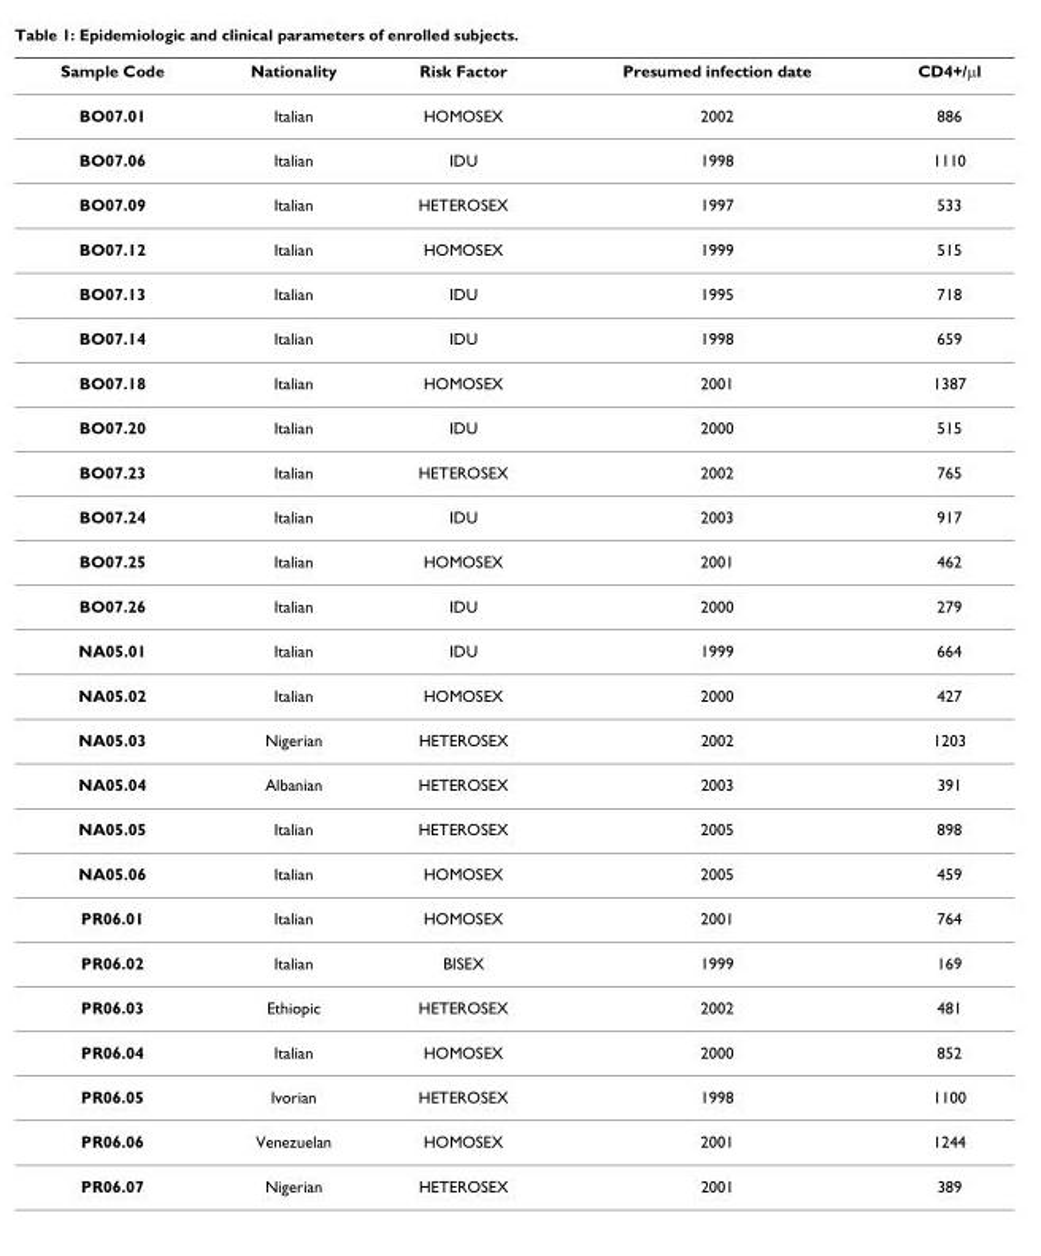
<table><thead><tr><td>Sample Code</td><td>Nationality</td><td>Risk Factor</td><td>Presumed infection date</td><td>CD4+/μl</td></tr></thead><tbody><tr><td>BO07.01</td><td>Italian</td><td>HOMOSEX</td><td>2002</td><td>886</td></tr><tr><td>BO07.06</td><td>Italian</td><td>IDU</td><td>1998</td><td>1110</td></tr><tr><td>BO07.09</td><td>Italian</td><td>HETEROSEX</td><td>1997</td><td>533</td></tr><tr><td>BO07.12</td><td>Italian</td><td>HOMOSEX</td><td>1999</td><td>515</td></tr><tr><td>BO07.13</td><td>Italian</td><td>IDU</td><td>1995</td><td>718</td></tr><tr><td>BO07.14</td><td>Italian</td><td>IDU</td><td>1998</td><td>659</td></tr><tr><td>BO07.18</td><td>Italian</td><td>HOMOSEX</td><td>2001</td><td>1387</td></tr><tr><td>BO07.20</td><td>Italian</td><td>IDU</td><td>2000</td><td>515</td></tr><tr><td>BO07.23</td><td>Italian</td><td>HETEROSEX</td><td>2002</td><td>765</td></tr><tr><td>BO07.24</td><td>Italian</td><td>IDU</td><td>2003</td><td>917</td></tr><tr><td>BO07.25</td><td>Italian</td><td>HOMOSEX</td><td>2001</td><td>462</td></tr><tr><td>BO07.26</td><td>Italian</td><td>IDU</td><td>2000</td><td>279</td></tr><tr><td>NA05.01</td><td>Italian</td><td>IDU</td><td>1999</td><td>664</td></tr><tr><td>NA05.02</td><td>Italian</td><td>HOMOSEX</td><td>2000</td><td>427</td></tr><tr><td>NA05.03</td><td>Nigerian</td><td>HETEROSEX</td><td>2002</td><td>1203</td></tr><tr><td>NA05.04</td><td>Albanian</td><td>HETEROSEX</td><td>2003</td><td>391</td></tr><tr><td>NA05.05</td><td>Italian</td><td>HETEROSEX</td><td>2005</td><td>898</td></tr><tr><td>NA05.06</td><td>Italian</td><td>HOMOSEX</td><td>2005</td><td>459</td></tr><tr><td>PR06.01</td><td>Italian</td><td>HOMOSEX</td><td>2001</td><td>764</td></tr><tr><td>PR06.02</td><td>Italian</td><td>BISEX</td><td>1999</td><td>169</td></tr><tr><td>PR06.03</td><td>Ethiopic</td><td>HETEROSEX</td><td>2002</td><td>481</td></tr><tr><td>PR06.04</td><td>Italian</td><td>HOMOSEX</td><td>2000</td><td>852</td></tr><tr><td>PR06.05</td><td>Ivorian</td><td>HETEROSEX</td><td>1998</td><td>1100</td></tr><tr><td>PR06.06</td><td>Venezuelan</td><td>HOMOSEX</td><td>2001</td><td>1244</td></tr><tr><td>PR06.07</td><td>Nigerian</td><td>HETEROSEX</td><td>2001</td><td>389</td></tr></tbody></table>